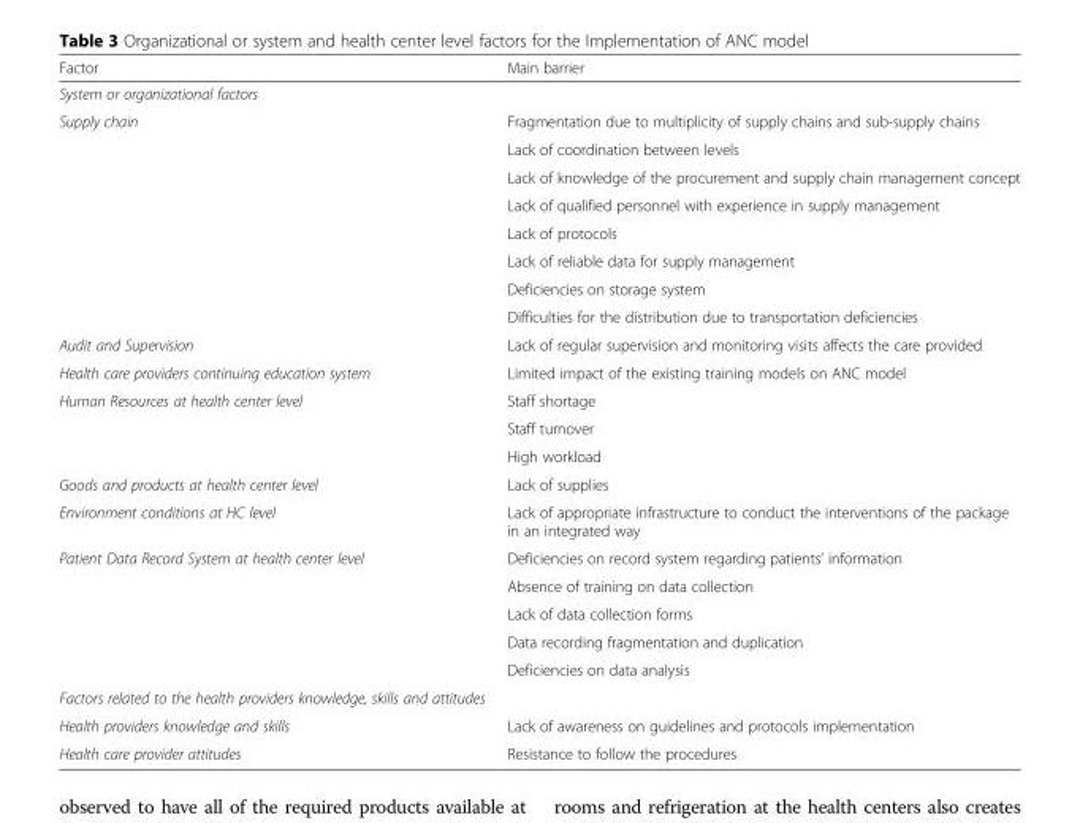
<table><thead><tr><td>Factor</td><td>Main barrier</td></tr></thead><tbody><tr><td colspan="2">System or organizational factors</td></tr><tr><td rowspan="8">Supply chain</td><td>Fragmentation due to multiplicity of supply chains and sub-supply chains</td></tr><tr><td>Lack of coordination between levels</td></tr><tr><td>Lack of knowledge of the procurement and supply chain management concept</td></tr><tr><td>Lack of qualified personnel with experience in supply management</td></tr><tr><td>Lack of protocols</td></tr><tr><td>Lack of reliable data for supply management</td></tr><tr><td>Deficiencies on storage system</td></tr><tr><td>Difficulties for the distribution due to transportation deficiencies</td></tr><tr><td>Audit and Supervision</td><td>Lack of regular supervision and monitoring visits affects the care provided</td></tr><tr><td>Health care providers continuing education system</td><td>Limited impact of the existing training models on ANC model</td></tr><tr><td rowspan="3">Human Resources at health center level</td><td>Staff shortage</td></tr><tr><td>Staff turnover</td></tr><tr><td>High workload</td></tr><tr><td>Goods and products at health center level</td><td>Lack of supplies</td></tr><tr><td>Environment conditions at HC level</td><td>Lack of appropriate infrastructure to conduct the interventions of the package in an integrated way</td></tr><tr><td rowspan="5">Patient Data Record System at health center level</td><td>Deficiencies on record system regarding patients’ information</td></tr><tr><td>Absence of training on data collection</td></tr><tr><td>Lack of data collection forms</td></tr><tr><td>Data recording fragmentation and duplication</td></tr><tr><td>Deficiencies on data analysis</td></tr><tr><td colspan="2">Factors related to the health providers knowledge, skills and attitudes</td></tr><tr><td>Health providers knowledge and skills</td><td>Lack of awareness on guidelines and protocols implementation</td></tr><tr><td>Health care provider attitudes</td><td>Resistance to follow the procedures</td></tr></tbody></table>